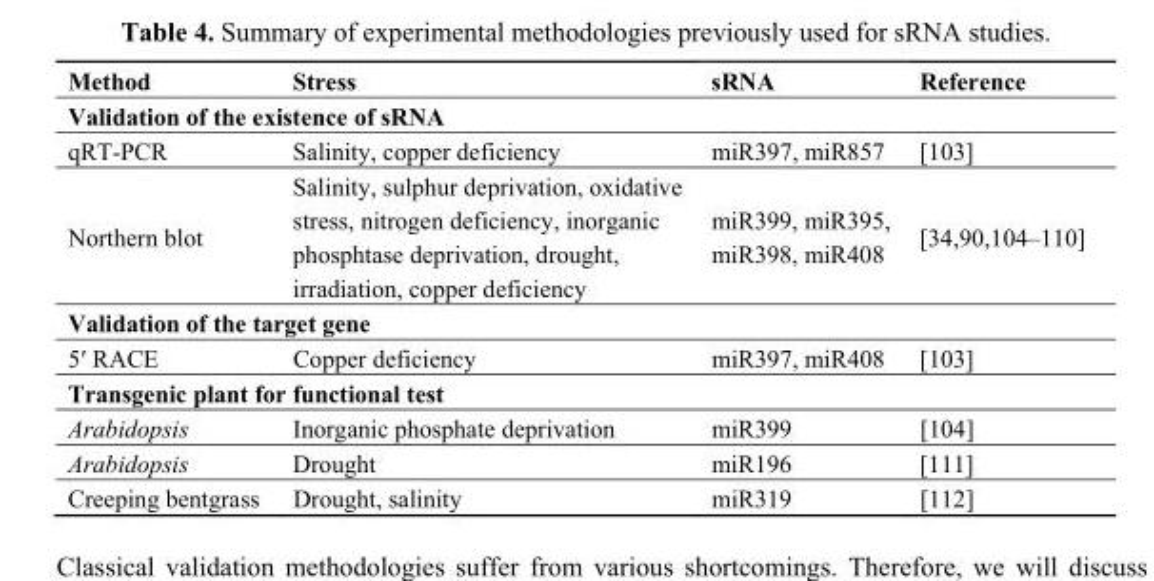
<table><thead><tr><td>Method</td><td>Stress</td><td>sRNA</td><td>Reference</td></tr></thead><tbody><tr><td colspan="4">Validation of the existence of sRNA</td></tr><tr><td>qRT-PCR</td><td>Salinity, copper deficiency</td><td>miR397, miR857</td><td>[103]</td></tr><tr><td>Northern blot</td><td>Salinity, sulphur deprivation, oxidative stress, nitrogen deficiency, inorganic phosphtase deprivation, drought, irradiation, copper deficiency</td><td>miR399, miR395, miR398, miR408</td><td>[34,90,104–110]</td></tr><tr><td colspan="4">Validation of the target gene</td></tr><tr><td>5′ RACE</td><td>Copper deficiency</td><td>miR397, miR408</td><td>[103]</td></tr><tr><td colspan="4">Transgenic plant for functional test</td></tr><tr><td>Arabidopsis</td><td>Inorganic phosphate deprivation</td><td>miR399</td><td>[104]</td></tr><tr><td>Arabidopsis</td><td>Drought</td><td>miR196</td><td>[111]</td></tr><tr><td>Creeping bentgrass</td><td>Drought, salinity</td><td>miR319</td><td>[112]</td></tr></tbody></table>